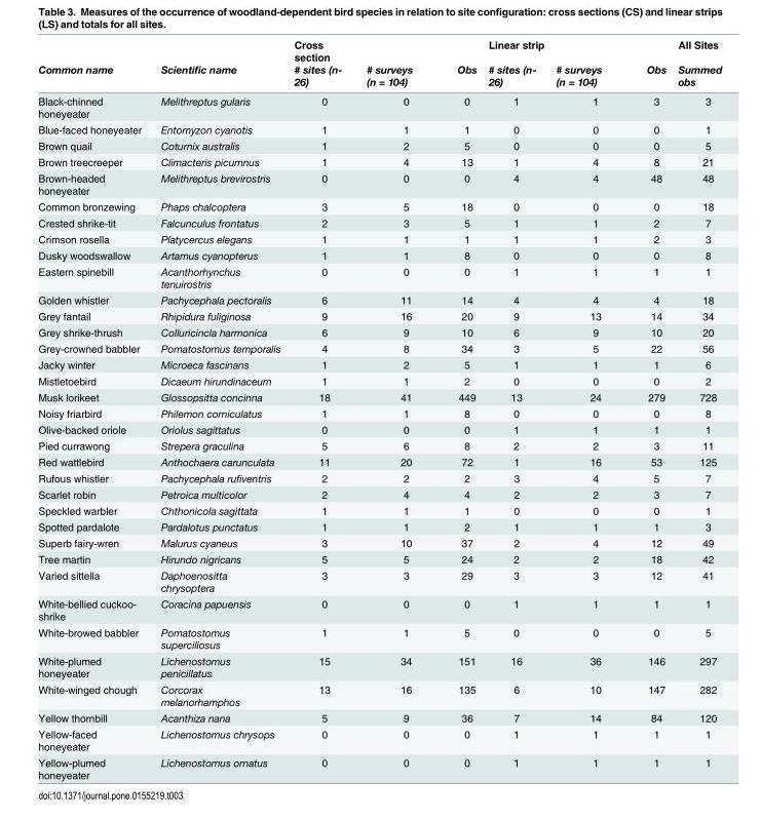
<table><thead><tr><td rowspan="2">Common name</td><td rowspan="2">Scientific name</td><td rowspan="2">Cross section # sites (n- 26)</td><td rowspan="2"># surveys (n = 104)</td><td rowspan="2">Obs</td><td rowspan="2">Linear strip # sites (n- 26)</td><td rowspan="2"># surveys (n = 104)</td><td rowspan="2">Obs</td><td rowspan="2">All Sites Summed obs</td></tr><tr></tr></thead><tbody><tr><td>Black-chinned honeyeater</td><td>Melithreptus gularis</td><td>0</td><td>0</td><td>0</td><td>1</td><td>1</td><td>3</td><td>3</td></tr><tr><td>Blue-faced honeyeater</td><td>Entomyzon cyanotis</td><td>1</td><td>1</td><td>1</td><td>0</td><td>0</td><td>0</td><td>1</td></tr><tr><td>Brown quail</td><td>Coturnix australis</td><td>1</td><td>2</td><td>5</td><td>0</td><td>0</td><td>0</td><td>5</td></tr><tr><td>Brown treecreeper</td><td>Climacteris picumnus</td><td>1</td><td>4</td><td>13</td><td>1</td><td>4</td><td>8</td><td>21</td></tr><tr><td>Brown-headed honeyeater</td><td>Melithreptus brevirostris</td><td>0</td><td>0</td><td>0</td><td>4</td><td>4</td><td>48</td><td>48</td></tr><tr><td>Common bronzewing</td><td>Phaps chalcoptera</td><td>3</td><td>5</td><td>18</td><td>0</td><td>0</td><td>0</td><td>18</td></tr><tr><td>Crested shrike-tit</td><td>Falcunculus frontatus</td><td>2</td><td>3</td><td>5</td><td>1</td><td>1</td><td>2</td><td>7</td></tr><tr><td>Crimson rosella</td><td>Platycercus elegans</td><td>1</td><td>1</td><td>1</td><td>1</td><td>1</td><td>2</td><td>3</td></tr><tr><td>Dusky woodswallow</td><td>Artamus cyanopterus</td><td>1</td><td>1</td><td>8</td><td>0</td><td>0</td><td>0</td><td>8</td></tr><tr><td>Eastern spinebill</td><td>Acanthorhynchus tenuirostris</td><td>0</td><td>0</td><td>0</td><td>1</td><td>1</td><td>1</td><td>1</td></tr><tr><td>Golden whistler</td><td>Pachycephala pectoralis</td><td>6</td><td>11</td><td>14</td><td>4</td><td>4</td><td>4</td><td>18</td></tr><tr><td>Grey fantail</td><td>Rhipidura fuliginosa</td><td>9</td><td>16</td><td>20</td><td>9</td><td>13</td><td>14</td><td>34</td></tr><tr><td>Grey shrike-thrush</td><td>Colluricincla harmonica</td><td>6</td><td>9</td><td>10</td><td>6</td><td>9</td><td>10</td><td>20</td></tr><tr><td>Grey-crowned babbler</td><td>Pomatostomus temporalis</td><td>4</td><td>8</td><td>34</td><td>3</td><td>5</td><td>22</td><td>56</td></tr><tr><td>Jacky winter</td><td>Microeca fascinans</td><td>1</td><td>2</td><td>5</td><td>1</td><td>1</td><td>1</td><td>6</td></tr><tr><td>Mistletoebird</td><td>Dicaeum hirundinaceum</td><td>1</td><td>1</td><td>2</td><td>0</td><td>0</td><td>0</td><td>2</td></tr><tr><td>Musk lorikeet</td><td>Glossopsitta concinna</td><td>18</td><td>41</td><td>449</td><td>13</td><td>24</td><td>279</td><td>728</td></tr><tr><td>Noisy friarbird</td><td>Philemon corniculatus</td><td>1</td><td>1</td><td>8</td><td>0</td><td>0</td><td>0</td><td>8</td></tr><tr><td>Olive-backed oriole</td><td>Oriolus sagittatus</td><td>0</td><td>0</td><td>0</td><td>1</td><td>1</td><td>1</td><td>1</td></tr><tr><td>Pied currawong</td><td>Strepera graculina</td><td>5</td><td>6</td><td>8</td><td>2</td><td>2</td><td>3</td><td>11</td></tr><tr><td>Red wattlebird</td><td>Anthochaera carunculata</td><td>11</td><td>20</td><td>72</td><td>1</td><td>16</td><td>53</td><td>125</td></tr><tr><td>Rufous whistler</td><td>Pachycephala rufiventris</td><td>2</td><td>2</td><td>2</td><td>3</td><td>4</td><td>5</td><td>7</td></tr><tr><td>Scarlet robin</td><td>Petroica multicolor</td><td>2</td><td>4</td><td>4</td><td>2</td><td>2</td><td>3</td><td>7</td></tr><tr><td>Speckled warbler</td><td>Chthonicola sagittata</td><td>1</td><td>1</td><td>1</td><td>0</td><td>0</td><td>0</td><td>1</td></tr><tr><td>Spotted pardalote</td><td>Pardalotus punctatus</td><td>1</td><td>1</td><td>2</td><td>1</td><td>1</td><td>1</td><td>3</td></tr><tr><td>Superb fairy-wren</td><td>Malurus cyaneus</td><td>3</td><td>10</td><td>37</td><td>2</td><td>4</td><td>12</td><td>49</td></tr><tr><td>Tree martin</td><td>Hirundo nigricans</td><td>5</td><td>5</td><td>24</td><td>2</td><td>2</td><td>18</td><td>42</td></tr><tr><td>Varied sittella</td><td>Daphoenositta chrysoptera</td><td>3</td><td>3</td><td>29</td><td>3</td><td>3</td><td>12</td><td>41</td></tr><tr><td>White-bellied cuckoo- shrike</td><td>Coracina papuensis</td><td>0</td><td>0</td><td>0</td><td>1</td><td>1</td><td>1</td><td>1</td></tr><tr><td>White-browed babbler</td><td>Pomatostomus superciliosus</td><td>1</td><td>1</td><td>5</td><td>0</td><td>0</td><td>0</td><td>5</td></tr><tr><td>White-plumed honeyeater</td><td>Lichenostomus penicillatus</td><td>15</td><td>34</td><td>151</td><td>16</td><td>36</td><td>146</td><td>297</td></tr><tr><td>White-winged chough</td><td>Corcorax melanorhamphos</td><td>13</td><td>16</td><td>135</td><td>6</td><td>10</td><td>147</td><td>282</td></tr><tr><td>Yellow thornbill</td><td>Acanthiza nana</td><td>5</td><td>9</td><td>36</td><td>7</td><td>14</td><td>84</td><td>120</td></tr><tr><td>Yellow-faced honeyeater</td><td>Lichenostomus chrysops</td><td>0</td><td>0</td><td>0</td><td>1</td><td>1</td><td>1</td><td>1</td></tr><tr><td>Yellow-plumed honeyeater</td><td>Lichenostomus ornatus</td><td>0</td><td>0</td><td>0</td><td>1</td><td>1</td><td>1</td><td>1</td></tr></tbody></table>